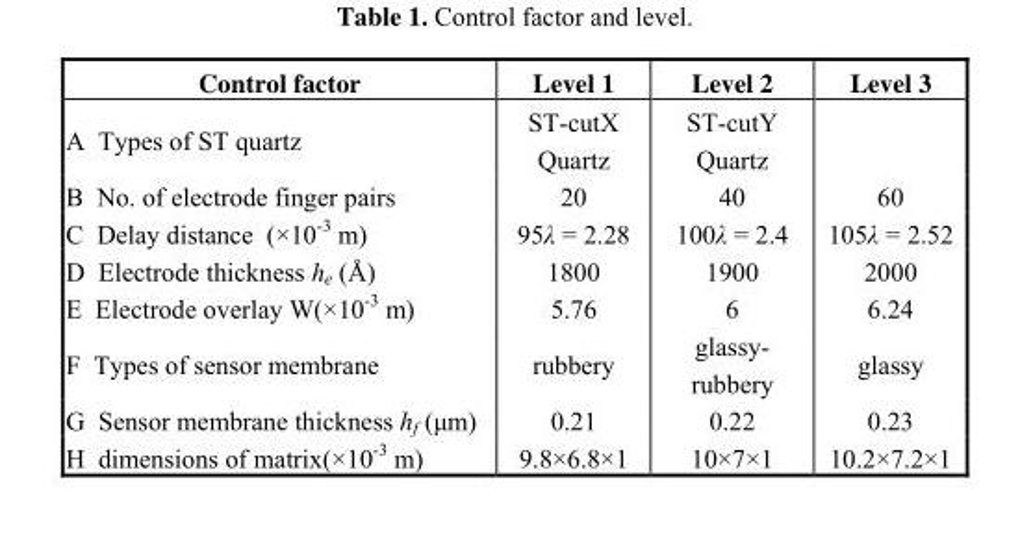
<table><thead><tr><td>Control factor</td><td>Level 1</td><td>Level 2</td><td>Level 3</td></tr></thead><tbody><tr><td>A Types of ST quartz</td><td>ST-cutX Quartz</td><td>ST-cutY Quartz</td><td></td></tr><tr><td>B No. of electrode finger pairs</td><td>20</td><td>40</td><td>60</td></tr><tr><td>C Delay distance (×10<sup>-3</sup> m)</td><td>95λ = 2.28</td><td>100λ = 2.4</td><td>105λ = 2.52</td></tr><tr><td>D Electrode thickness h<sub>e</sub> (Å)</td><td>1800</td><td>1900</td><td>2000</td></tr><tr><td>E Electrode overlay W(×10<sup>-3</sup> m)</td><td>5.76</td><td>6</td><td>6.24</td></tr><tr><td>F Types of sensor membrane</td><td>rubbery</td><td>glassy- rubbery</td><td>glassy</td></tr><tr><td>G Sensor membrane thickness h<sub>f</sub> (μm)</td><td>0.21</td><td>0.22</td><td>0.23</td></tr><tr><td>H dimensions of matrix(×10<sup>-3</sup> m)</td><td>9.8×6.8×1</td><td>10×7×1</td><td>10.2×7.2×1</td></tr></tbody></table>